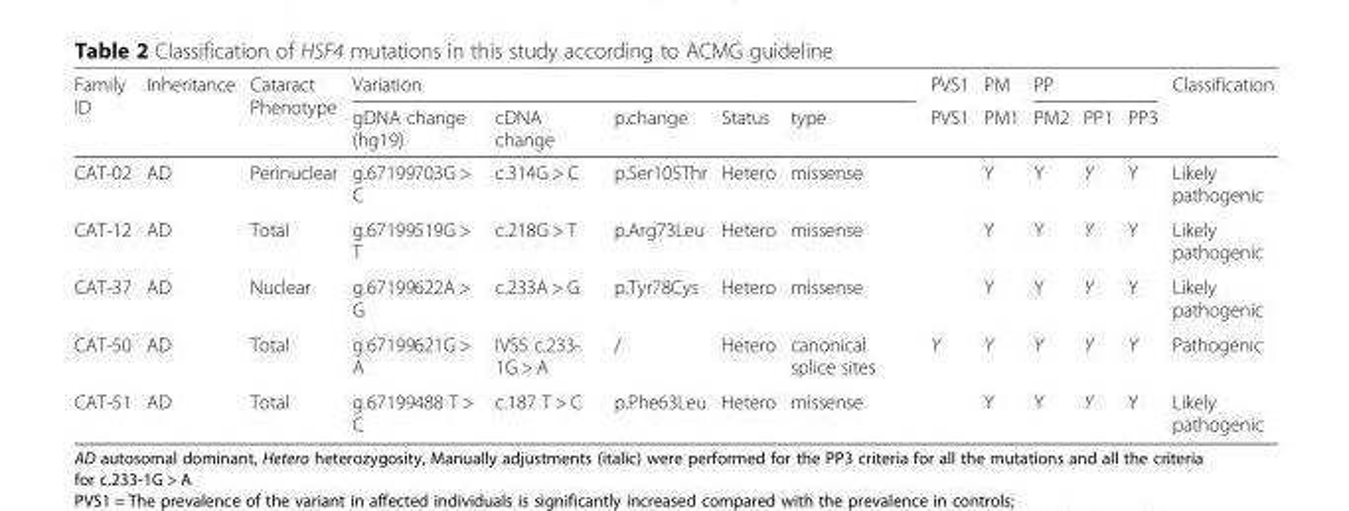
<table><thead><tr><td rowspan="2">Family ID</td><td rowspan="2">Inheritance</td><td rowspan="2">Cataract Phenotype</td><td colspan="5">Variation</td><td rowspan="2">PVS1 PVS1</td><td rowspan="2">PM PM1</td><td colspan="3">PP</td><td rowspan="2">Classification</td></tr><tr><td>gDNA change (hg19)</td><td>cDNA change</td><td>p.change</td><td>Status</td><td>type</td><td>PM2</td><td>PP1</td><td>PP3</td></tr></thead><tbody><tr><td>CAT-02</td><td>AD</td><td>Perinuclear</td><td>g.67199703G &gt; C</td><td>c.314G &gt; C</td><td>p.Ser105Thr</td><td>Hetero</td><td>missense</td><td></td><td>Y</td><td>Y</td><td>Y</td><td>Y</td><td>Likely pathogenic</td></tr><tr><td>CAT-12</td><td>AD</td><td>Total</td><td>g.67199519G &gt; T</td><td>c.218G &gt; T</td><td>p.Arg73Leu</td><td>Hetero</td><td>missense</td><td></td><td>Y</td><td>Y</td><td>Y</td><td>Y</td><td>Likely pathogenic</td></tr><tr><td>CAT-37</td><td>AD</td><td>Nuclear</td><td>g.67199622A &gt; G</td><td>c.233A &gt; G</td><td>p.Tyr78Cys</td><td>Hetero</td><td>missense</td><td></td><td>Y</td><td>Y</td><td>Y</td><td>Y</td><td>Likely pathogenic</td></tr><tr><td>CAT-50</td><td>AD</td><td>Total</td><td>g.67199621G &gt; A</td><td>IVS5 c.233- 1G &gt; A</td><td>/</td><td>Hetero</td><td>canonical splice sites</td><td>Y</td><td>Y</td><td>Y</td><td>Y</td><td>Y</td><td>Pathogenic</td></tr><tr><td>CAT-51</td><td>AD</td><td>Total</td><td>g.67199488 T &gt; C</td><td>c.187 T &gt; C</td><td>p.Phe63Leu</td><td>Hetero</td><td>missense</td><td></td><td>Y</td><td>Y</td><td>Y</td><td>Y</td><td>Likely pathogenic</td></tr></tbody></table>